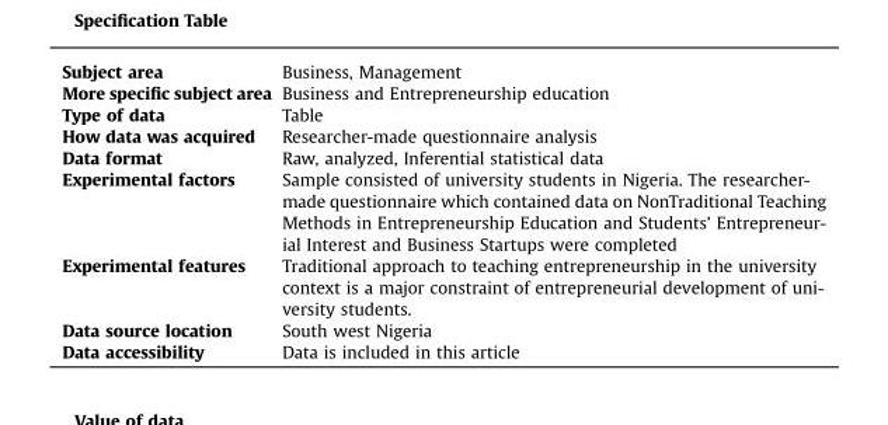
<table><tbody><tr><td>Subject area</td><td>Business, Management</td></tr><tr><td>More specific subject area</td><td>Business and Entrepreneurship education</td></tr><tr><td>Type of data</td><td>Table</td></tr><tr><td>How data was acquired</td><td>Researcher-made questionnaire analysis</td></tr><tr><td>Data format</td><td>Raw, analyzed, Inferential statistical data</td></tr><tr><td>Experimental factors</td><td>Sample consisted of university students in Nigeria. The researcher- made questionnaire which contained data on NonTraditional Teaching Methods in Entrepreneurship Education and Students’ Entrepreneur- ial Interest and Business Startups were completed</td></tr><tr><td>Experimental features</td><td>Traditional approach to teaching entrepreneurship in the university context is a major constraint of entrepreneurial development of uni- versity students.</td></tr><tr><td>Data source location</td><td>South west Nigeria</td></tr><tr><td>Data accessibility</td><td>Data is included in this article</td></tr></tbody></table>